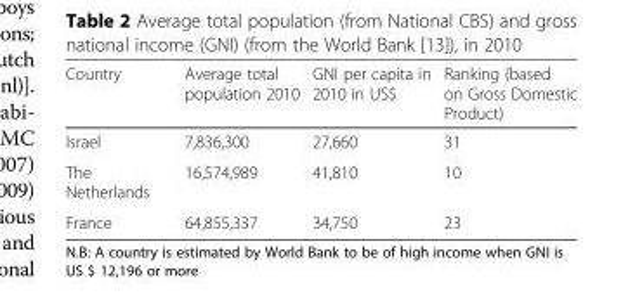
<table><thead><tr><td>Country</td><td>Average total population 2010</td><td>GNI per capita in 2010 in US$</td><td>Ranking (based on Gross Domestic Product)</td></tr></thead><tbody><tr><td>Israel</td><td>7,836,300</td><td>27,660</td><td>31</td></tr><tr><td>The Netherlands</td><td>16,574,989</td><td>41,810</td><td>10</td></tr><tr><td>France</td><td>64,855,337</td><td>34,750</td><td>23</td></tr></tbody></table>